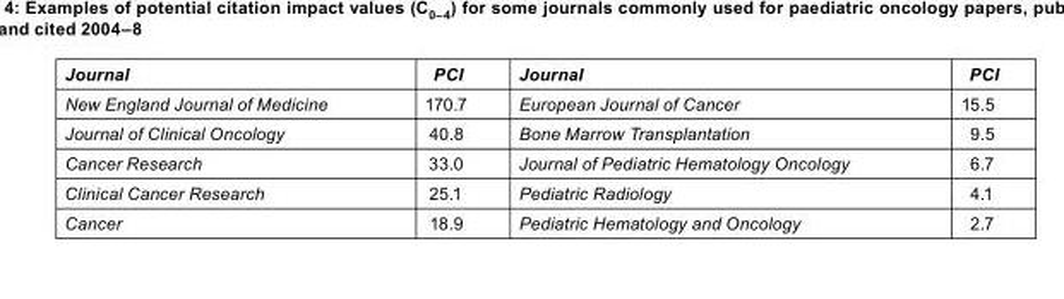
<table><thead><tr><td>Journal</td><td>PCI</td><td>Journal</td><td>PCI</td></tr></thead><tbody><tr><td>New England Journal of Medicine</td><td>170.7</td><td>European Journal of Cancer</td><td>15.5</td></tr><tr><td>Journal of Clinical Oncology</td><td>40.8</td><td>Bone Marrow Transplantation</td><td>9.5</td></tr><tr><td>Cancer Research</td><td>33.0</td><td>Journal of Pediatric Hematology Oncology</td><td>6.7</td></tr><tr><td>Clinical Cancer Research</td><td>25.1</td><td>Pediatric Radiology</td><td>4.1</td></tr><tr><td>Cancer</td><td>18.9</td><td>Pediatric Hematology and Oncology</td><td>2.7</td></tr></tbody></table>